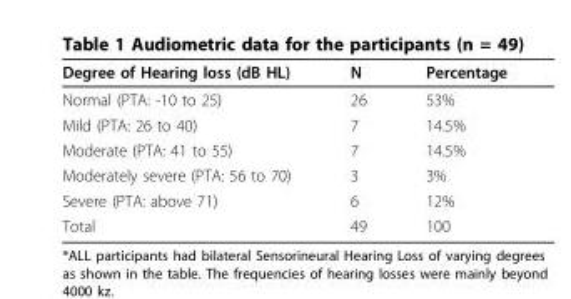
<table><thead><tr><td>Degree of Hearing loss (dB HL)</td><td>N</td><td>Percentage</td></tr></thead><tbody><tr><td>Normal (PTA: -10 to 25)</td><td>26</td><td>53%</td></tr><tr><td>Mild (PTA: 26 to 40)</td><td>7</td><td>14.5%</td></tr><tr><td>Moderate (PTA: 41 to 55)</td><td>7</td><td>14.5%</td></tr><tr><td>Moderately severe (PTA: 56 to 70)</td><td>3</td><td>3%</td></tr><tr><td>Severe (PTA: above 71)</td><td>6</td><td>12%</td></tr><tr><td>Total</td><td>49</td><td>100</td></tr></tbody></table>